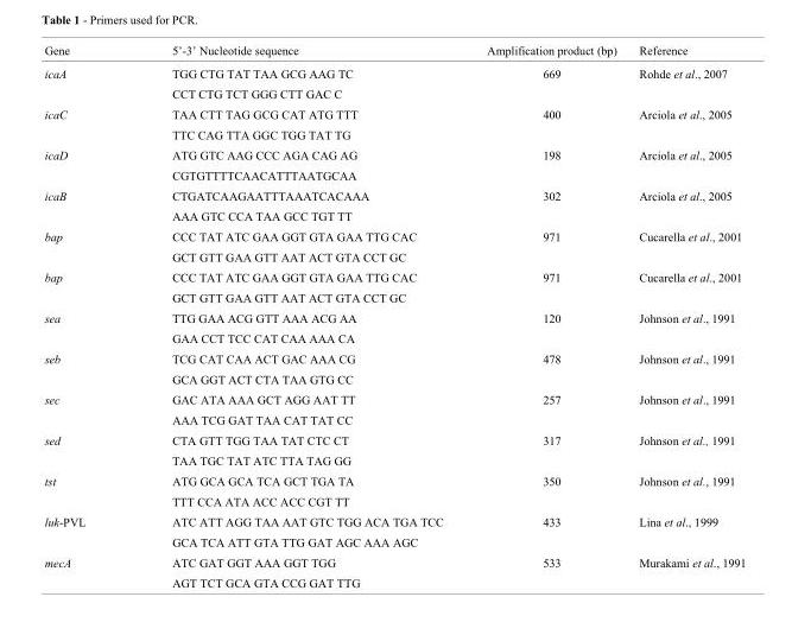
<table><thead><tr><td>Gene</td><td>5’-3’ Nucleotide sequence</td><td>Amplification product (bp)</td><td>Reference</td></tr></thead><tbody><tr><td rowspan="2">icaA</td><td>TGG CTG TAT TAA GCG AAG TC</td><td>669</td><td>Rohde et al., 2007</td></tr><tr><td>CCT CTG TCT GGG CTT GAC C</td><td></td><td></td></tr><tr><td rowspan="2">icaC</td><td>TAA CTT TAG GCG CAT ATG TTT</td><td>400</td><td>Arciola et al., 2005</td></tr><tr><td>TTC CAG TTA GGC TGG TAT TG</td><td></td><td></td></tr><tr><td rowspan="2">icaD</td><td>ATG GTC AAG CCC AGA CAG AG</td><td>198</td><td>Arciola et al., 2005</td></tr><tr><td>CGTGTTTTCAACATTTAATGCAA</td><td></td><td></td></tr><tr><td rowspan="2">icaB</td><td>CTGATCAAGAATTTAAATCACAAA</td><td>302</td><td>Arciola et al., 2005</td></tr><tr><td>AAA GTC CCA TAA GCC TGT TT</td><td></td><td></td></tr><tr><td rowspan="2">bap</td><td>CCC TAT ATC GAA GGT GTA GAA TTG CAC</td><td>971</td><td>Cucarella et al., 2001</td></tr><tr><td>GCT GTT GAA GTT AAT ACT GTA CCT GC</td><td></td><td></td></tr><tr><td rowspan="2">bap</td><td>CCC TAT ATC GAA GGT GTA GAA TTG CAC</td><td>971</td><td>Cucarella et al., 2001</td></tr><tr><td>GCT GTT GAA GTT AAT ACT GTA CCT GC</td><td></td><td></td></tr><tr><td rowspan="2">sea</td><td>TTG GAA ACG GTT AAA ACG AA</td><td>120</td><td>Johnson et al., 1991</td></tr><tr><td>GAA CCT TCC CAT CAA AAA CA</td><td></td><td></td></tr><tr><td rowspan="2">seb</td><td>TCG CAT CAA ACT GAC AAA CG</td><td>478</td><td>Johnson et al., 1991</td></tr><tr><td>GCA GGT ACT CTA TAA GTG CC</td><td></td><td></td></tr><tr><td rowspan="2">sec</td><td>GAC ATA AAA GCT AGG AAT TT</td><td>257</td><td>Johnson et al., 1991</td></tr><tr><td>AAA TCG GAT TAA CAT TAT CC</td><td></td><td></td></tr><tr><td rowspan="2">sed</td><td>CTA GTT TGG TAA TAT CTC CT</td><td>317</td><td>Johnson et al., 1991</td></tr><tr><td>TAA TGC TAT ATC TTA TAG GG</td><td></td><td></td></tr><tr><td rowspan="2">tst</td><td>ATG GCA GCA TCA GCT TGA TA</td><td>350</td><td>Johnson et al., 1991</td></tr><tr><td>TTT CCA ATA ACC ACC CGT TT</td><td></td><td></td></tr><tr><td rowspan="2">luk-PVL</td><td>ATC ATT AGG TAA AAT GTC TGG ACA TGA TCC</td><td>433</td><td>Lina et al., 1999</td></tr><tr><td>GCA TCA ATT GTA TTG GAT AGC AAA AGC</td><td></td><td></td></tr><tr><td rowspan="2">mecA</td><td>ATC GAT GGT AAA GGT TGG</td><td>533</td><td>Murakami et al., 1991</td></tr><tr><td>AGT TCT GCA GTA CCG GAT TTG</td><td></td><td></td></tr></tbody></table>